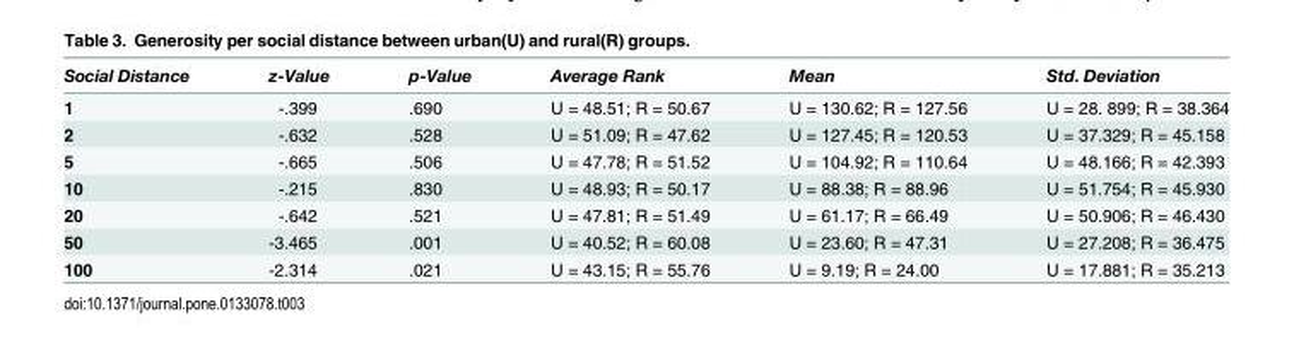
<table><thead><tr><td>Social Distance</td><td>z-Value</td><td>p-Value</td><td>Average Rank</td><td>Mean</td><td>Std. Deviation</td></tr></thead><tbody><tr><td>1</td><td>-.399</td><td>.690</td><td>U = 48.51; R = 50.67</td><td>U = 130.62; R = 127.56</td><td>U = 28. 899; R = 38.364</td></tr><tr><td>2</td><td>-.632</td><td>.528</td><td>U = 51.09; R = 47.62</td><td>U = 127.45; R = 120.53</td><td>U = 37.329; R = 45.158</td></tr><tr><td>5</td><td>-.665</td><td>.506</td><td>U = 47.78; R = 51.52</td><td>U = 104.92; R = 110.64</td><td>U = 48.166; R = 42.393</td></tr><tr><td>10</td><td>-.215</td><td>.830</td><td>U = 48.93; R = 50.17</td><td>U = 88.38; R = 88.96</td><td>U = 51.754; R = 45.930</td></tr><tr><td>20</td><td>-.642</td><td>.521</td><td>U = 47.81; R = 51.49</td><td>U = 61.17; R = 66.49</td><td>U = 50.906; R = 46.430</td></tr><tr><td>50</td><td>-3.465</td><td>.001</td><td>U = 40.52; R = 60.08</td><td>U = 23.60; R = 47.31</td><td>U = 27.208; R = 36.475</td></tr><tr><td>100</td><td>-2.314</td><td>.021</td><td>U = 43.15; R = 55.76</td><td>U = 9.19; R = 24.00</td><td>U = 17.881; R = 35.213</td></tr></tbody></table>